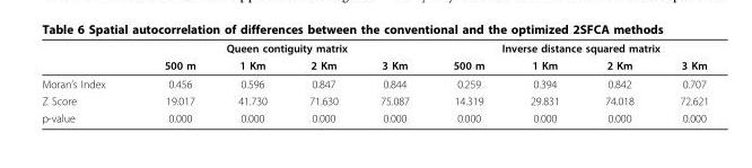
<table><thead><tr><td rowspan="2"></td><td colspan="4">Queen contiguity matrix</td><td colspan="4">Inverse distance squared matrix</td></tr><tr><td>500 m</td><td>1 Km</td><td>2 Km</td><td>3 Km</td><td>500 m</td><td>1 Km</td><td>2 Km</td><td>3 Km</td></tr></thead><tbody><tr><td>Moran’s Index</td><td>0.456</td><td>0.596</td><td>0.847</td><td>0.844</td><td>0.259</td><td>0.394</td><td>0.842</td><td>0.707</td></tr><tr><td>Z Score</td><td>19.017</td><td>41.730</td><td>71.630</td><td>75.087</td><td>14.319</td><td>29.831</td><td>74.018</td><td>72.621</td></tr><tr><td>p-value</td><td>0.000</td><td>0.000</td><td>0.000</td><td>0.000</td><td>0.000</td><td>0.000</td><td>0.000</td><td>0.000</td></tr></tbody></table>